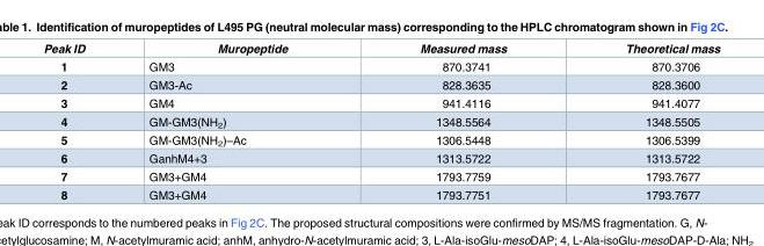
<table><thead><tr><td>Peak ID</td><td>Muropeptide</td><td>Measured mass</td><td>Theoretical mass</td></tr></thead><tbody><tr><td>1</td><td>GM3</td><td>870.3741</td><td>870.3706</td></tr><tr><td>2</td><td>GM3-Ac</td><td>828.3635</td><td>828.3600</td></tr><tr><td>3</td><td>GM4</td><td>941.4116</td><td>941.4077</td></tr><tr><td>4</td><td>GM-GM3(NH<sub>2</sub>)</td><td>1348.5564</td><td>1348.5505</td></tr><tr><td>5</td><td>GM-GM3(NH<sub>2</sub>)–Ac</td><td>1306.5448</td><td>1306.5399</td></tr><tr><td>6</td><td>GanhM4+3</td><td>1313.5722</td><td>1313.5722</td></tr><tr><td>7</td><td>GM3+GM4</td><td>1793.7759</td><td>1793.7677</td></tr><tr><td>8</td><td>GM3+GM4</td><td>1793.7751</td><td>1793.7677</td></tr></tbody></table>